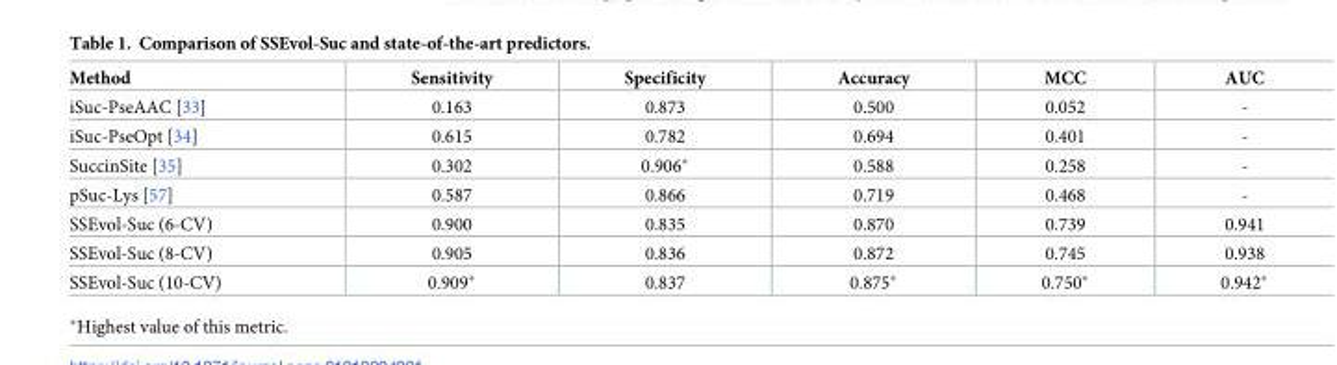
<table><thead><tr><td>Method</td><td>Sensitivity</td><td>Specificity</td><td>Accuracy</td><td>MCC</td><td>AUC</td></tr></thead><tbody><tr><td>iSuc-PseAAC [33]</td><td>0.163</td><td>0.873</td><td>0.500</td><td>0.052</td><td>-</td></tr><tr><td>iSuc-PseOpt [34]</td><td>0.615</td><td>0.782</td><td>0.694</td><td>0.401</td><td>-</td></tr><tr><td>SuccinSite [35]</td><td>0.302</td><td>0.906*</td><td>0.588</td><td>0.258</td><td>-</td></tr><tr><td>pSuc-Lys [57]</td><td>0.587</td><td>0.866</td><td>0.719</td><td>0.468</td><td>-</td></tr><tr><td>SSEvol-Suc (6-CV)</td><td>0.900</td><td>0.835</td><td>0.870</td><td>0.739</td><td>0.941</td></tr><tr><td>SSEvol-Suc (8-CV)</td><td>0.905</td><td>0.836</td><td>0.872</td><td>0.745</td><td>0.938</td></tr><tr><td>SSEvol-Suc (10-CV)</td><td>0.909*</td><td>0.837</td><td>0.875*</td><td>0.750*</td><td>0.942*</td></tr></tbody></table>